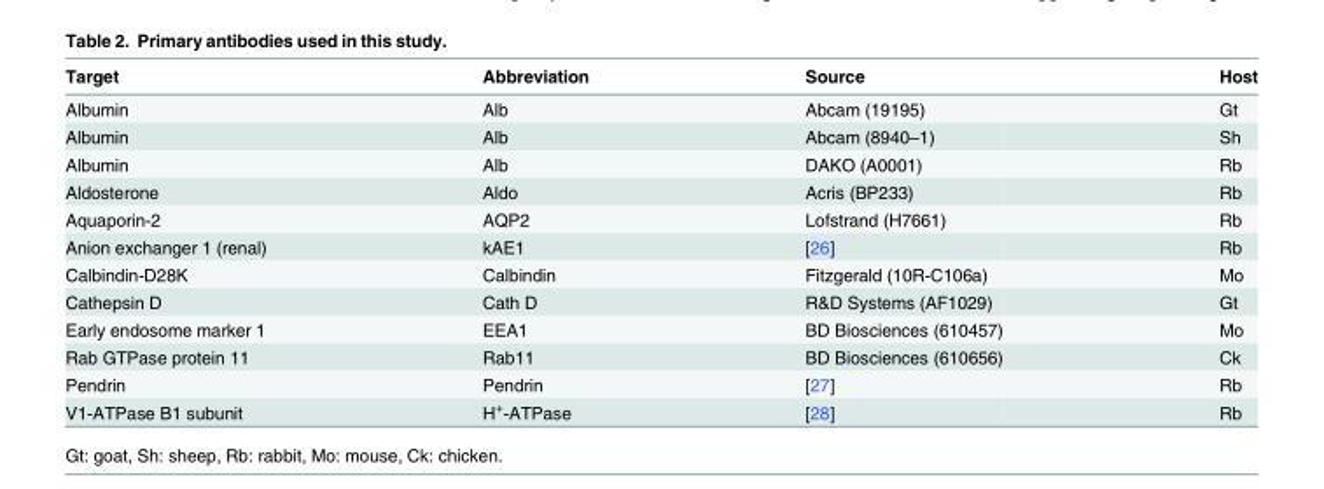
<table><thead><tr><td>Target</td><td>Abbreviation</td><td>Source</td><td>Host</td></tr></thead><tbody><tr><td>Albumin</td><td>Alb</td><td>Abcam (19195)</td><td>Gt</td></tr><tr><td>Albumin</td><td>Alb</td><td>Abcam (8940–1)</td><td>Sh</td></tr><tr><td>Albumin</td><td>Alb</td><td>DAKO (A0001)</td><td>Rb</td></tr><tr><td>Aldosterone</td><td>Aldo</td><td>Acris (BP233)</td><td>Rb</td></tr><tr><td>Aquaporin-2</td><td>AQP2</td><td>Lofstrand (H7661)</td><td>Rb</td></tr><tr><td>Anion exchanger 1 (renal)</td><td>kAE1</td><td>[26]</td><td>Rb</td></tr><tr><td>Calbindin-D28K</td><td>Calbindin</td><td>Fitzgerald (10R-C106a)</td><td>Mo</td></tr><tr><td>Cathepsin D</td><td>Cath D</td><td>R&amp;D Systems (AF1029)</td><td>Gt</td></tr><tr><td>Early endosome marker 1</td><td>EEA1</td><td>BD Biosciences (610457)</td><td>Mo</td></tr><tr><td>Rab GTPase protein 11</td><td>Rab11</td><td>BD Biosciences (610656)</td><td>Ck</td></tr><tr><td>Pendrin</td><td>Pendrin</td><td>[27]</td><td>Rb</td></tr><tr><td>V1-ATPase B1 subunit</td><td>H<sup>+</sup>-ATPase</td><td>[28]</td><td>Rb</td></tr></tbody></table>